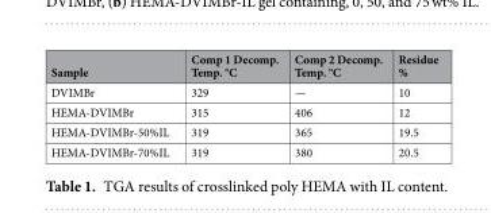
<table><thead><tr><td>Sample</td><td>Comp 1 Decomp. Temp. °C</td><td>Comp 2 Decomp. Temp. °C</td><td>Residue %</td></tr></thead><tbody><tr><td>DVIMBr</td><td>329</td><td>—</td><td>10</td></tr><tr><td>HEMA-DVIMBr</td><td>315</td><td>406</td><td>12</td></tr><tr><td>HEMA-DVIMBr-50%IL</td><td>319</td><td>365</td><td>19.5</td></tr><tr><td>HEMA-DVIMBr-70%IL</td><td>319</td><td>380</td><td>20.5</td></tr></tbody></table>